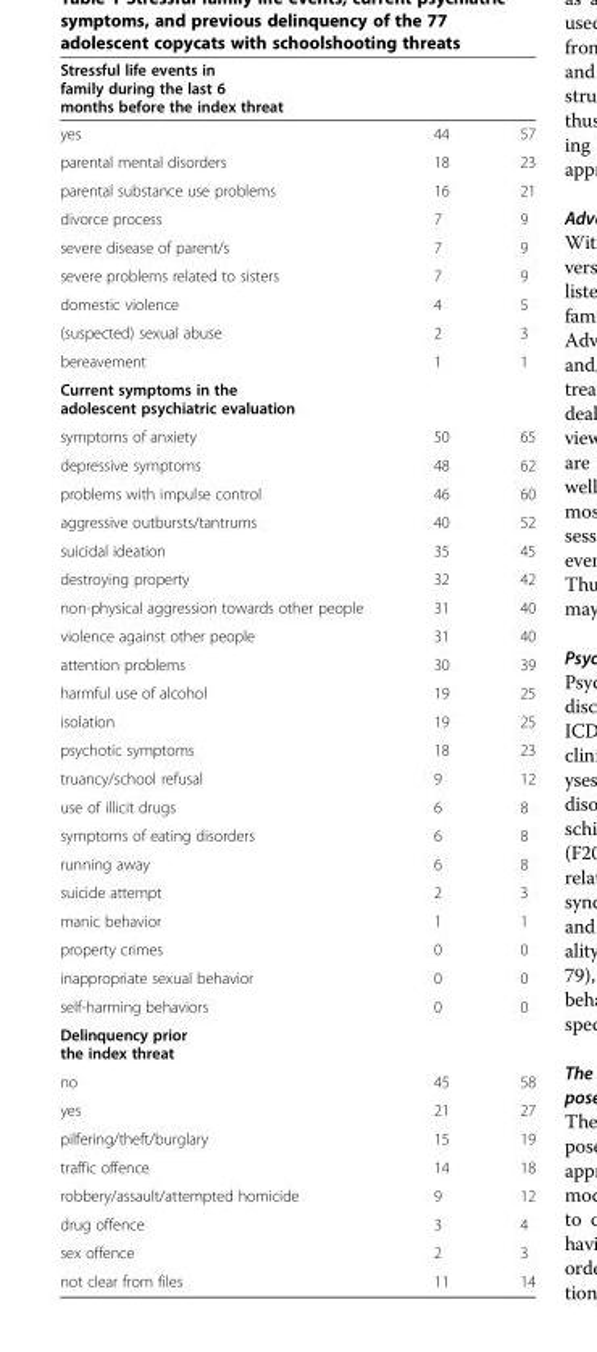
<table><thead><tr><td>Stressful life events in family during the last 6 months before the index threat</td><td></td><td></td></tr></thead><tbody><tr><td>yes</td><td>44</td><td>57</td></tr><tr><td>parental mental disorders</td><td>18</td><td>23</td></tr><tr><td>parental substance use problems</td><td>16</td><td>21</td></tr><tr><td>divorce process</td><td>7</td><td>9</td></tr><tr><td>severe disease of parent/s</td><td>7</td><td>9</td></tr><tr><td>severe problems related to sisters</td><td>7</td><td>9</td></tr><tr><td>domestic violence</td><td>4</td><td>5</td></tr><tr><td>(suspected) sexual abuse</td><td>2</td><td>3</td></tr><tr><td>bereavement</td><td>1</td><td>1</td></tr><tr><td colspan="3">Current symptoms in the adolescent psychiatric evaluation</td></tr><tr><td>symptoms of anxiety</td><td>50</td><td>65</td></tr><tr><td>depressive symptoms</td><td>48</td><td>62</td></tr><tr><td>problems with impulse control</td><td>46</td><td>60</td></tr><tr><td>aggressive outbursts/tantrums</td><td>40</td><td>52</td></tr><tr><td>suicidal ideation</td><td>35</td><td>45</td></tr><tr><td>destroying property</td><td>32</td><td>42</td></tr><tr><td>non-physical aggression towards other people</td><td>31</td><td>40</td></tr><tr><td>violence against other people</td><td>31</td><td>40</td></tr><tr><td>attention problems</td><td>30</td><td>39</td></tr><tr><td>harmful use of alcohol</td><td>19</td><td>25</td></tr><tr><td>isolation</td><td>19</td><td>25</td></tr><tr><td>psychotic symptoms</td><td>18</td><td>23</td></tr><tr><td>truancy/school refusal</td><td>9</td><td>12</td></tr><tr><td>use of illicit drugs</td><td>6</td><td>8</td></tr><tr><td>symptoms of eating disorders</td><td>6</td><td>8</td></tr><tr><td>running away</td><td>6</td><td>8</td></tr><tr><td>suicide attempt</td><td>2</td><td>3</td></tr><tr><td>manic behavior</td><td>1</td><td>1</td></tr><tr><td>property crimes</td><td>0</td><td>0</td></tr><tr><td>inappropriate sexual behavior</td><td>0</td><td>0</td></tr><tr><td>self-harming behaviors</td><td>0</td><td>0</td></tr><tr><td colspan="3">Delinquency prior the index threat</td></tr><tr><td>no</td><td>45</td><td>58</td></tr><tr><td>yes</td><td>21</td><td>27</td></tr><tr><td>pilfering/theft/burglary</td><td>15</td><td>19</td></tr><tr><td>traffic offence</td><td>14</td><td>18</td></tr><tr><td>robbery/assault/attempted homicide</td><td>9</td><td>12</td></tr><tr><td>drug offence</td><td>3</td><td>4</td></tr><tr><td>sex offence</td><td>2</td><td>3</td></tr><tr><td>not clear from files</td><td>11</td><td>14</td></tr></tbody></table>